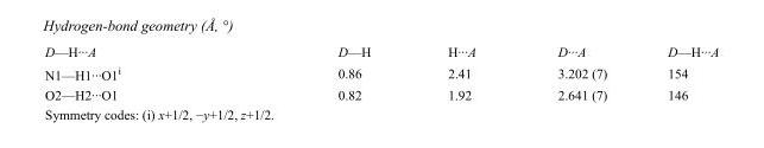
<table><tbody><tr><td>D—H···A</td><td>D—H</td><td>H···A</td><td>D···A</td><td>D—H···A</td></tr><tr><td>N1—H1···O1<sup>i</sup></td><td>0.86</td><td>2.41</td><td>3.202 (7)</td><td>154</td></tr><tr><td>O2—H2···O1</td><td>0.82</td><td>1.92</td><td>2.641 (7)</td><td>146</td></tr></tbody></table>